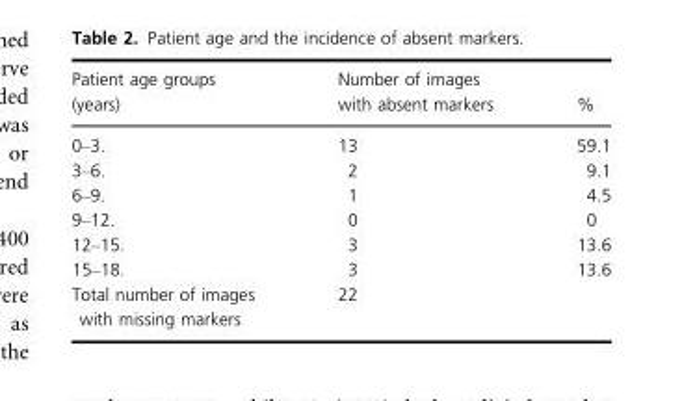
<table><thead><tr><td>Patient age groups (years)</td><td>Number of images with absent markers</td><td>%</td></tr></thead><tbody><tr><td>0–3.</td><td>13</td><td>59.1</td></tr><tr><td>3–6.</td><td>2</td><td>9.1</td></tr><tr><td>6–9.</td><td>1</td><td>4.5</td></tr><tr><td>9–12.</td><td>0</td><td>0</td></tr><tr><td>12–15.</td><td>3</td><td>13.6</td></tr><tr><td>15–18.</td><td>3</td><td>13.6</td></tr><tr><td>Total number of images with missing markers</td><td>22</td><td></td></tr></tbody></table>